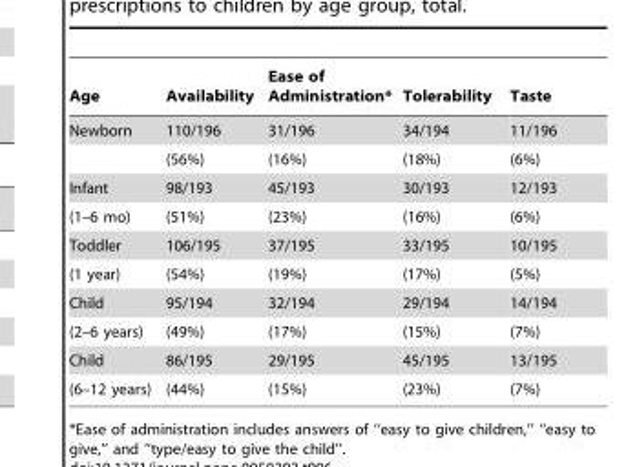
<table><thead><tr><td>Age</td><td>Availability</td><td>Ease of Administration*</td><td>Tolerability</td><td>Taste</td></tr></thead><tbody><tr><td rowspan="2">Newborn</td><td>110/196</td><td>31/196</td><td>34/194</td><td>11/196</td></tr><tr><td>(56%)</td><td>(16%)</td><td>(18%)</td><td>(6%)</td></tr><tr><td>Infant</td><td>98/193</td><td>45/193</td><td>30/193</td><td>12/193</td></tr><tr><td>(1–6 mo)</td><td>(51%)</td><td>(23%)</td><td>(16%)</td><td>(6%)</td></tr><tr><td>Toddler</td><td>106/195</td><td>37/195</td><td>33/195</td><td>10/195</td></tr><tr><td>(1 year)</td><td>(54%)</td><td>(19%)</td><td>(17%)</td><td>(5%)</td></tr><tr><td>Child</td><td>95/194</td><td>32/194</td><td>29/194</td><td>14/194</td></tr><tr><td>(2–6 years)</td><td>(49%)</td><td>(17%)</td><td>(15%)</td><td>(7%)</td></tr><tr><td>Child</td><td>86/195</td><td>29/195</td><td>45/195</td><td>13/195</td></tr><tr><td>(6–12 years)</td><td>(44%)</td><td>(15%)</td><td>(23%)</td><td>(7%)</td></tr></tbody></table>